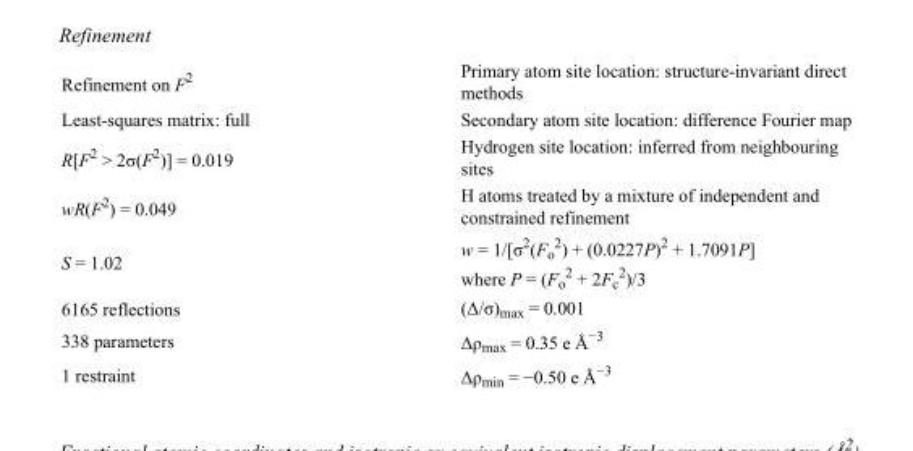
<table><tbody><tr><td>Refinement on F<sup>2</sup></td><td>Primary atom site location: structure-invariant direct methods</td></tr><tr><td>Least-squares matrix: full</td><td>Secondary atom site location: difference Fourier map</td></tr><tr><td>R[F<sup>2</sup> &gt; 2σ(F<sup>2</sup>)] = 0.019</td><td>Hydrogen site location: inferred from neighbouring sites</td></tr><tr><td>wR(F<sup>2</sup>) = 0.049</td><td>H atoms treated by a mixture of independent and constrained refinement</td></tr><tr><td>S = 1.02</td><td>w = 1/[σ<sup>2</sup>(F<sub>o</sub> <sup>2</sup>) + (0.0227P)<sup>2</sup> + 1.7091P] where P = (F<sub>o</sub> <sup>2</sup> + 2F<sub>c</sub> <sup>2</sup>)/3</td></tr><tr><td>6165 reflections</td><td>(Δ/σ)<sub>max</sub> = 0.001</td></tr><tr><td>338 parameters</td><td>Δρ<sub>max</sub> = 0.35 e Å<sup>−3</sup></td></tr><tr><td>1 restraint</td><td>Δρ<sub>min</sub> = −0.50 e Å<sup>−3</sup></td></tr></tbody></table>